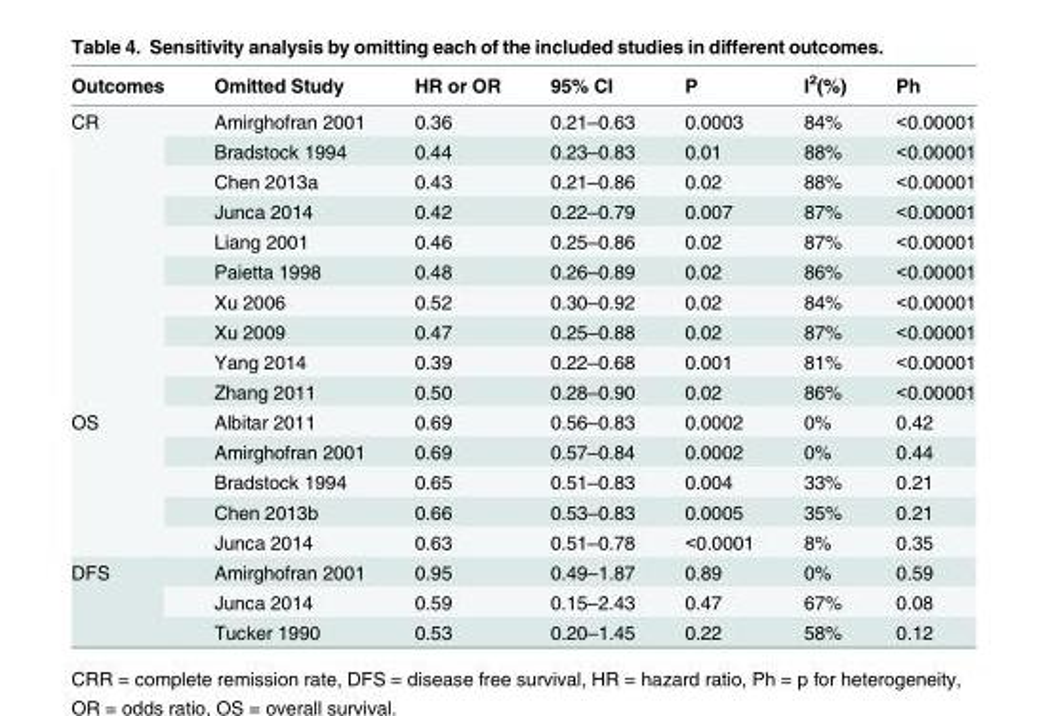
<table><thead><tr><td>Outcomes</td><td>Omitted Study</td><td>HR or OR</td><td>95% CI</td><td>P</td><td>I<sup>2</sup>(%)</td><td>Ph</td></tr></thead><tbody><tr><td rowspan="10">CR</td><td>Amirghofran 2001</td><td>0.36</td><td>0.21–0.63</td><td>0.0003</td><td>84%</td><td>&lt;0.00001</td></tr><tr><td>Bradstock 1994</td><td>0.44</td><td>0.23–0.83</td><td>0.01</td><td>88%</td><td>&lt;0.00001</td></tr><tr><td>Chen 2013a</td><td>0.43</td><td>0.21–0.86</td><td>0.02</td><td>88%</td><td>&lt;0.00001</td></tr><tr><td>Junca 2014</td><td>0.42</td><td>0.22–0.79</td><td>0.007</td><td>87%</td><td>&lt;0.00001</td></tr><tr><td>Liang 2001</td><td>0.46</td><td>0.25–0.86</td><td>0.02</td><td>87%</td><td>&lt;0.00001</td></tr><tr><td>Paietta 1998</td><td>0.48</td><td>0.26–0.89</td><td>0.02</td><td>86%</td><td>&lt;0.00001</td></tr><tr><td>Xu 2006</td><td>0.52</td><td>0.30–0.92</td><td>0.02</td><td>84%</td><td>&lt;0.00001</td></tr><tr><td>Xu 2009</td><td>0.47</td><td>0.25–0.88</td><td>0.02</td><td>87%</td><td>&lt;0.00001</td></tr><tr><td>Yang 2014</td><td>0.39</td><td>0.22–0.68</td><td>0.001</td><td>81%</td><td>&lt;0.00001</td></tr><tr><td>Zhang 2011</td><td>0.50</td><td>0.28–0.90</td><td>0.02</td><td>86%</td><td>&lt;0.00001</td></tr><tr><td rowspan="5">OS</td><td>Albitar 2011</td><td>0.69</td><td>0.56–0.83</td><td>0.0002</td><td>0%</td><td>0.42</td></tr><tr><td>Amirghofran 2001</td><td>0.69</td><td>0.57–0.84</td><td>0.0002</td><td>0%</td><td>0.44</td></tr><tr><td>Bradstock 1994</td><td>0.65</td><td>0.51–0.83</td><td>0.004</td><td>33%</td><td>0.21</td></tr><tr><td>Chen 2013b</td><td>0.66</td><td>0.53–0.83</td><td>0.0005</td><td>35%</td><td>0.21</td></tr><tr><td>Junca 2014</td><td>0.63</td><td>0.51–0.78</td><td>&lt;0.0001</td><td>8%</td><td>0.35</td></tr><tr><td rowspan="3">DFS</td><td>Amirghofran 2001</td><td>0.95</td><td>0.49–1.87</td><td>0.89</td><td>0%</td><td>0.59</td></tr><tr><td>Junca 2014</td><td>0.59</td><td>0.15–2.43</td><td>0.47</td><td>67%</td><td>0.08</td></tr><tr><td>Tucker 1990</td><td>0.53</td><td>0.20–1.45</td><td>0.22</td><td>58%</td><td>0.12</td></tr></tbody></table>